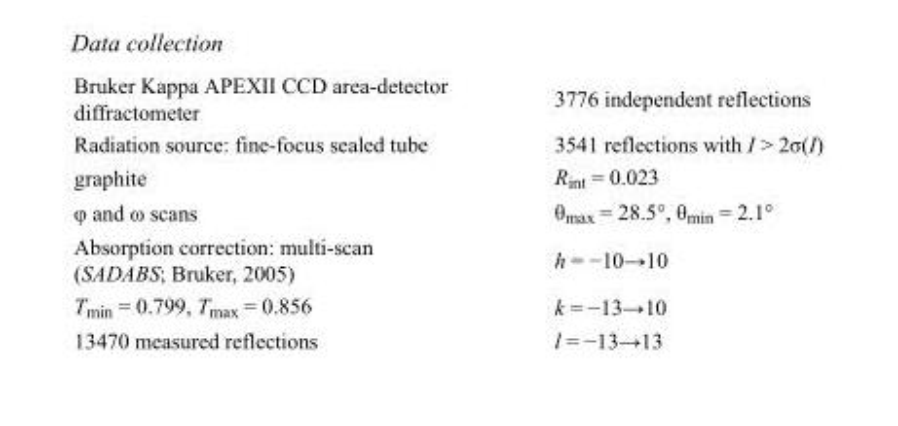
<table><tbody><tr><td>Bruker Kappa APEXII CCD area-detector diffractometer</td><td>3776 independent reflections</td></tr><tr><td>Radiation source: fine-focus sealed tube</td><td>3541 reflections with I &gt; 2σ(I)</td></tr><tr><td>graphite</td><td>R<sub>int</sub> = 0.023</td></tr><tr><td>φ and ω scans</td><td>θ<sub>max</sub> = 28.5°, θ<sub>min</sub> = 2.1°</td></tr><tr><td>Absorption correction: multi-scan (SADABS; Bruker, 2005)</td><td>h = −10→10</td></tr><tr><td>T<sub>min</sub> = 0.799, T<sub>max</sub> = 0.856</td><td>k = −13→10</td></tr><tr><td>13470 measured reflections</td><td>l = −13→13</td></tr></tbody></table>